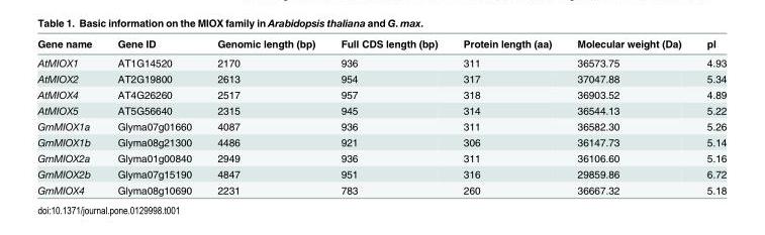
<table><thead><tr><td>Gene name</td><td>Gene ID</td><td>Genomic length (bp)</td><td>Full CDS length (bp)</td><td>Protein length (aa)</td><td>Molecular weight (Da)</td><td>pI</td></tr></thead><tbody><tr><td>AtMIOX1</td><td>AT1G14520</td><td>2170</td><td>936</td><td>311</td><td>36573.75</td><td>4.93</td></tr><tr><td>AtMIOX2</td><td>AT2G19800</td><td>2613</td><td>954</td><td>317</td><td>37047.88</td><td>5.34</td></tr><tr><td>AtMIOX4</td><td>AT4G26260</td><td>2517</td><td>957</td><td>318</td><td>36903.52</td><td>4.89</td></tr><tr><td>AtMIOX5</td><td>AT5G56640</td><td>2315</td><td>945</td><td>314</td><td>36544.13</td><td>5.22</td></tr><tr><td>GmMIOX1a</td><td>Glyma07g01660</td><td>4087</td><td>936</td><td>311</td><td>36582.30</td><td>5.26</td></tr><tr><td>GmMIOX1b</td><td>Glyma08g21300</td><td>4486</td><td>921</td><td>306</td><td>36147.73</td><td>5.14</td></tr><tr><td>GmMIOX2a</td><td>Glyma01g00840</td><td>2949</td><td>936</td><td>311</td><td>36106.60</td><td>5.16</td></tr><tr><td>GmMIOX2b</td><td>Glyma07g15190</td><td>4847</td><td>951</td><td>316</td><td>29859.86</td><td>6.72</td></tr><tr><td>GmMIOX4</td><td>Glyma08g10690</td><td>2231</td><td>783</td><td>260</td><td>36667.32</td><td>5.18</td></tr></tbody></table>